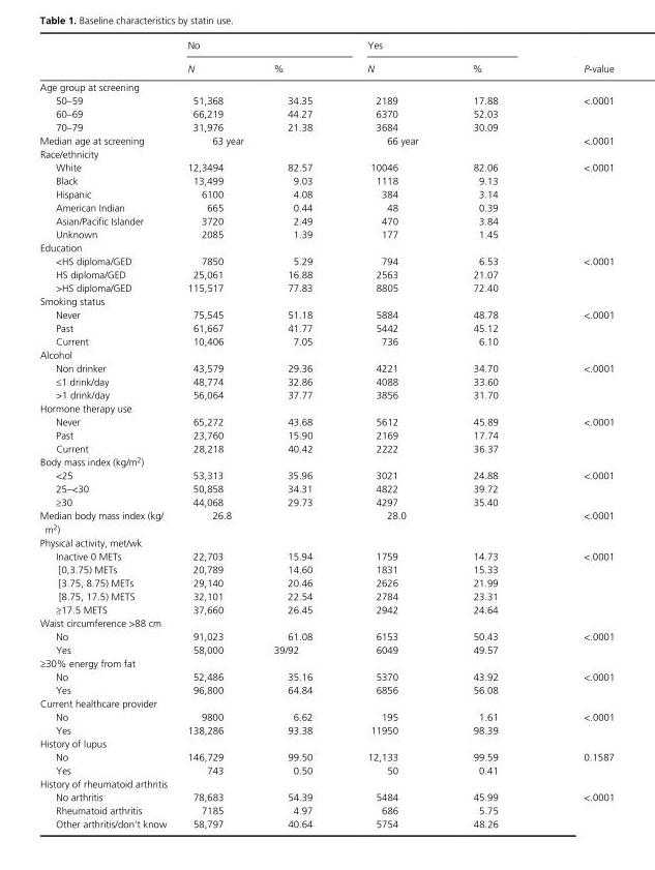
<table><thead><tr><td rowspan="2"></td><td colspan="2">No</td><td colspan="2">Yes</td><td rowspan="2">P- value</td></tr><tr><td>N</td><td>%</td><td>N</td><td>%</td></tr></thead><tbody><tr><td colspan="6">Age group at screening</td></tr><tr><td>50–59</td><td>51,368</td><td>34.35</td><td>2189</td><td>17.88</td><td rowspan="3">&lt;.0001</td></tr><tr><td>60–69</td><td>66,219</td><td>44.27</td><td>6370</td><td>52.03</td></tr><tr><td>70–79</td><td>31,976</td><td>21.38</td><td>3684</td><td>30.09</td></tr><tr><td>Median age at screening</td><td>63 year</td><td></td><td>66 year</td><td></td><td>&lt;.0001</td></tr><tr><td colspan="6">Race/ethnicity</td></tr><tr><td>White</td><td>12,3494</td><td>82.57</td><td>10046</td><td>82.06</td><td rowspan="6">&lt;.0001</td></tr><tr><td>Black</td><td>13,499</td><td>9.03</td><td>1118</td><td>9.13</td></tr><tr><td>Hispanic</td><td>6100</td><td>4.08</td><td>384</td><td>3.14</td></tr><tr><td>American Indian</td><td>665</td><td>0.44</td><td>48</td><td>0.39</td></tr><tr><td>Asian/Pacific Islander</td><td>3720</td><td>2.49</td><td>470</td><td>3.84</td></tr><tr><td>Unknown</td><td>2085</td><td>1.39</td><td>177</td><td>1.45</td></tr><tr><td colspan="6">Education</td></tr><tr><td>&lt;HS diploma/GED</td><td>7850</td><td>5.29</td><td>794</td><td>6.53</td><td rowspan="3">&lt;.0001</td></tr><tr><td>HS diploma/GED</td><td>25,061</td><td>16.88</td><td>2563</td><td>21.07</td></tr><tr><td>&gt;HS diploma/GED</td><td>115,517</td><td>77.83</td><td>8805</td><td>72.40</td></tr><tr><td colspan="6">Smoking status</td></tr><tr><td>Never</td><td>75,545</td><td>51.18</td><td>5884</td><td>48.78</td><td rowspan="3">&lt;.0001</td></tr><tr><td>Past</td><td>61,667</td><td>41.77</td><td>5442</td><td>45.12</td></tr><tr><td>Current</td><td>10,406</td><td>7.05</td><td>736</td><td>6.10</td></tr><tr><td colspan="6">Alcohol</td></tr><tr><td>Non drinker</td><td>43,579</td><td>29.36</td><td>4221</td><td>34.70</td><td rowspan="3">&lt;.0001</td></tr><tr><td>≤1 drink/day</td><td>48,774</td><td>32.86</td><td>4088</td><td>33.60</td></tr><tr><td>&gt;1 drink/day</td><td>56,064</td><td>37.77</td><td>3856</td><td>31.70</td></tr><tr><td colspan="6">Hormone therapy use</td></tr><tr><td>Never</td><td>65,272</td><td>43.68</td><td>5612</td><td>45.89</td><td rowspan="3">&lt;.0001</td></tr><tr><td>Past</td><td>23,760</td><td>15.90</td><td>2169</td><td>17.74</td></tr><tr><td>Current</td><td>28,218</td><td>40.42</td><td>2222</td><td>36.37</td></tr><tr><td colspan="6">Body mass index (kg/m<sup>2</sup>)</td></tr><tr><td>&lt;25</td><td>53,313</td><td>35.96</td><td>3021</td><td>24.88</td><td rowspan="3">&lt;.0001</td></tr><tr><td>25–&lt;30</td><td>50,858</td><td>34.31</td><td>4822</td><td>39.72</td></tr><tr><td>≥30</td><td>44,068</td><td>29.73</td><td>4297</td><td>35.40</td></tr><tr><td>Median body mass index (kg/ m<sup>2</sup>)</td><td>26.8</td><td></td><td>28.0</td><td></td><td>&lt;.0001</td></tr><tr><td colspan="6">Physical activity, met/wk</td></tr><tr><td>Inactive 0 METs</td><td>22,703</td><td>15.94</td><td>1759</td><td>14.73</td><td rowspan="5">&lt;.0001</td></tr><tr><td>[0,3.75) METs</td><td>20,789</td><td>14.60</td><td>1831</td><td>15.33</td></tr><tr><td>[3.75, 8.75) METs</td><td>29,140</td><td>20.46</td><td>2626</td><td>21.99</td></tr><tr><td>[8.75, 17.5) METS</td><td>32,101</td><td>22.54</td><td>2784</td><td>23.31</td></tr><tr><td>≥17.5 METS</td><td>37,660</td><td>26.45</td><td>2942</td><td>24.64</td></tr><tr><td colspan="6">Waist circumference &gt;88 cm</td></tr><tr><td>No</td><td>91,023</td><td>61.08</td><td>6153</td><td>50.43</td><td rowspan="2">&lt;.0001</td></tr><tr><td>Yes</td><td>58,000</td><td>39/92</td><td>6049</td><td>49.57</td></tr><tr><td colspan="6">≥30% energy from fat</td></tr><tr><td>No</td><td>52,486</td><td>35.16</td><td>5370</td><td>43.92</td><td rowspan="2">&lt;.0001</td></tr><tr><td>Yes</td><td>96,800</td><td>64.84</td><td>6856</td><td>56.08</td></tr><tr><td colspan="6">Current healthcare provider</td></tr><tr><td>No</td><td>9800</td><td>6.62</td><td>195</td><td>1.61</td><td rowspan="2">&lt;.0001</td></tr><tr><td>Yes</td><td>138,286</td><td>93.38</td><td>11950</td><td>98.39</td></tr><tr><td colspan="6">History of lupus</td></tr><tr><td>No</td><td>146,729</td><td>99.50</td><td>12,133</td><td>99.59</td><td rowspan="2">0.1587</td></tr><tr><td>Yes</td><td>743</td><td>0.50</td><td>50</td><td>0.41</td></tr><tr><td colspan="6">History of rheumatoid arthritis</td></tr><tr><td>No arthritis</td><td>78,683</td><td>54.39</td><td>5484</td><td>45.99</td><td rowspan="3">&lt;.0001</td></tr><tr><td>Rheumatoid arthritis</td><td>7185</td><td>4.97</td><td>686</td><td>5.75</td></tr><tr><td>Other arthritis/don’t know</td><td>58,797</td><td>40.64</td><td>5754</td><td>48.26</td></tr></tbody></table>